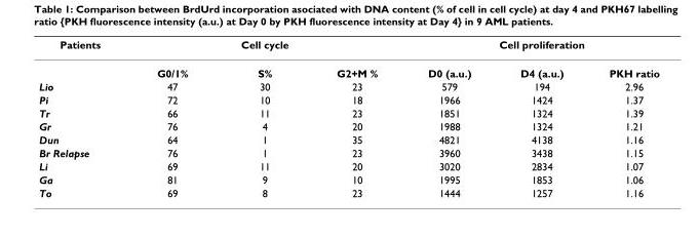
<table><thead><tr><td rowspan="2">Patients</td><td colspan="3">Cell cycle</td><td colspan="3">Cell proliferation</td></tr><tr><td>G0/1%</td><td>S%</td><td>G2+M %</td><td>D0 (a.u.)</td><td>D4 (a.u.)</td><td>PKH ratio</td></tr></thead><tbody><tr><td>Lio</td><td>47</td><td>30</td><td>23</td><td>579</td><td>194</td><td>2.96</td></tr><tr><td>Pi</td><td>72</td><td>10</td><td>18</td><td>1966</td><td>1424</td><td>1.37</td></tr><tr><td>Tr</td><td>66</td><td>11</td><td>23</td><td>1851</td><td>1324</td><td>1.39</td></tr><tr><td>Gr</td><td>76</td><td>4</td><td>20</td><td>1988</td><td>1324</td><td>1.21</td></tr><tr><td>Dun</td><td>64</td><td>1</td><td>35</td><td>4821</td><td>4138</td><td>1.16</td></tr><tr><td>Br Relapse</td><td>76</td><td>1</td><td>23</td><td>3960</td><td>3438</td><td>1.15</td></tr><tr><td>Li</td><td>69</td><td>11</td><td>20</td><td>3020</td><td>2834</td><td>1.07</td></tr><tr><td>Ga</td><td>81</td><td>9</td><td>10</td><td>1995</td><td>1853</td><td>1.06</td></tr><tr><td>To</td><td>69</td><td>8</td><td>23</td><td>1444</td><td>1257</td><td>1.16</td></tr></tbody></table>